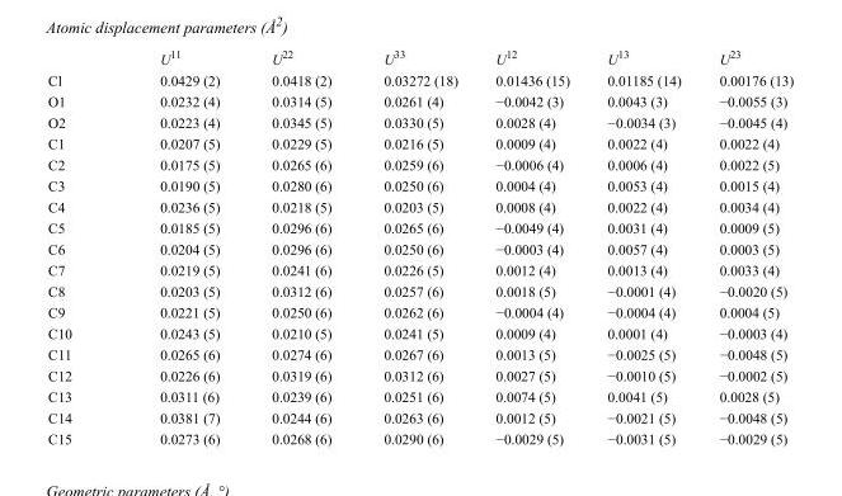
<table><thead><tr><td></td><td>U<sup>11</sup></td><td>U<sup>22</sup></td><td>U<sup>33</sup></td><td>U<sup>12</sup></td><td>U<sup>13</sup></td><td>U<sup>23</sup></td></tr></thead><tbody><tr><td>Cl</td><td>0.0429 (2)</td><td>0.0418 (2)</td><td>0.03272 (18)</td><td>0.01436 (15)</td><td>0.01185 (14)</td><td>0.00176 (13)</td></tr><tr><td>O1</td><td>0.0232 (4)</td><td>0.0314 (5)</td><td>0.0261 (4)</td><td>−0.0042 (3)</td><td>0.0043 (3)</td><td>−0.0055 (3)</td></tr><tr><td>O2</td><td>0.0223 (4)</td><td>0.0345 (5)</td><td>0.0330 (5)</td><td>0.0028 (4)</td><td>−0.0034 (3)</td><td>−0.0045 (4)</td></tr><tr><td>C1</td><td>0.0207 (5)</td><td>0.0229 (5)</td><td>0.0216 (5)</td><td>0.0009 (4)</td><td>0.0022 (4)</td><td>0.0022 (4)</td></tr><tr><td>C2</td><td>0.0175 (5)</td><td>0.0265 (6)</td><td>0.0259 (6)</td><td>−0.0006 (4)</td><td>0.0006 (4)</td><td>0.0022 (5)</td></tr><tr><td>C3</td><td>0.0190 (5)</td><td>0.0280 (6)</td><td>0.0250 (6)</td><td>0.0004 (4)</td><td>0.0053 (4)</td><td>0.0015 (4)</td></tr><tr><td>C4</td><td>0.0236 (5)</td><td>0.0218 (5)</td><td>0.0203 (5)</td><td>0.0008 (4)</td><td>0.0022 (4)</td><td>0.0034 (4)</td></tr><tr><td>C5</td><td>0.0185 (5)</td><td>0.0296 (6)</td><td>0.0265 (6)</td><td>−0.0049 (4)</td><td>0.0031 (4)</td><td>0.0009 (5)</td></tr><tr><td>C6</td><td>0.0204 (5)</td><td>0.0296 (6)</td><td>0.0250 (6)</td><td>−0.0003 (4)</td><td>0.0057 (4)</td><td>0.0003 (5)</td></tr><tr><td>C7</td><td>0.0219 (5)</td><td>0.0241 (6)</td><td>0.0226 (5)</td><td>0.0012 (4)</td><td>0.0013 (4)</td><td>0.0033 (4)</td></tr><tr><td>C8</td><td>0.0203 (5)</td><td>0.0312 (6)</td><td>0.0257 (6)</td><td>0.0018 (5)</td><td>−0.0001 (4)</td><td>−0.0020 (5)</td></tr><tr><td>C9</td><td>0.0221 (5)</td><td>0.0250 (6)</td><td>0.0262 (6)</td><td>−0.0004 (4)</td><td>−0.0004 (4)</td><td>0.0004 (5)</td></tr><tr><td>C10</td><td>0.0243 (5)</td><td>0.0210 (5)</td><td>0.0241 (5)</td><td>0.0009 (4)</td><td>0.0001 (4)</td><td>−0.0003 (4)</td></tr><tr><td>C11</td><td>0.0265 (6)</td><td>0.0274 (6)</td><td>0.0267 (6)</td><td>0.0013 (5)</td><td>−0.0025 (5)</td><td>−0.0048 (5)</td></tr><tr><td>C12</td><td>0.0226 (6)</td><td>0.0319 (6)</td><td>0.0312 (6)</td><td>0.0027 (5)</td><td>−0.0010 (5)</td><td>−0.0002 (5)</td></tr><tr><td>C13</td><td>0.0311 (6)</td><td>0.0239 (6)</td><td>0.0251 (6)</td><td>0.0074 (5)</td><td>0.0041 (5)</td><td>0.0028 (5)</td></tr><tr><td>C14</td><td>0.0381 (7)</td><td>0.0244 (6)</td><td>0.0263 (6)</td><td>0.0012 (5)</td><td>−0.0021 (5)</td><td>−0.0048 (5)</td></tr><tr><td>C15</td><td>0.0273 (6)</td><td>0.0268 (6)</td><td>0.0290 (6)</td><td>−0.0029 (5)</td><td>−0.0031 (5)</td><td>−0.0029 (5)</td></tr></tbody></table>